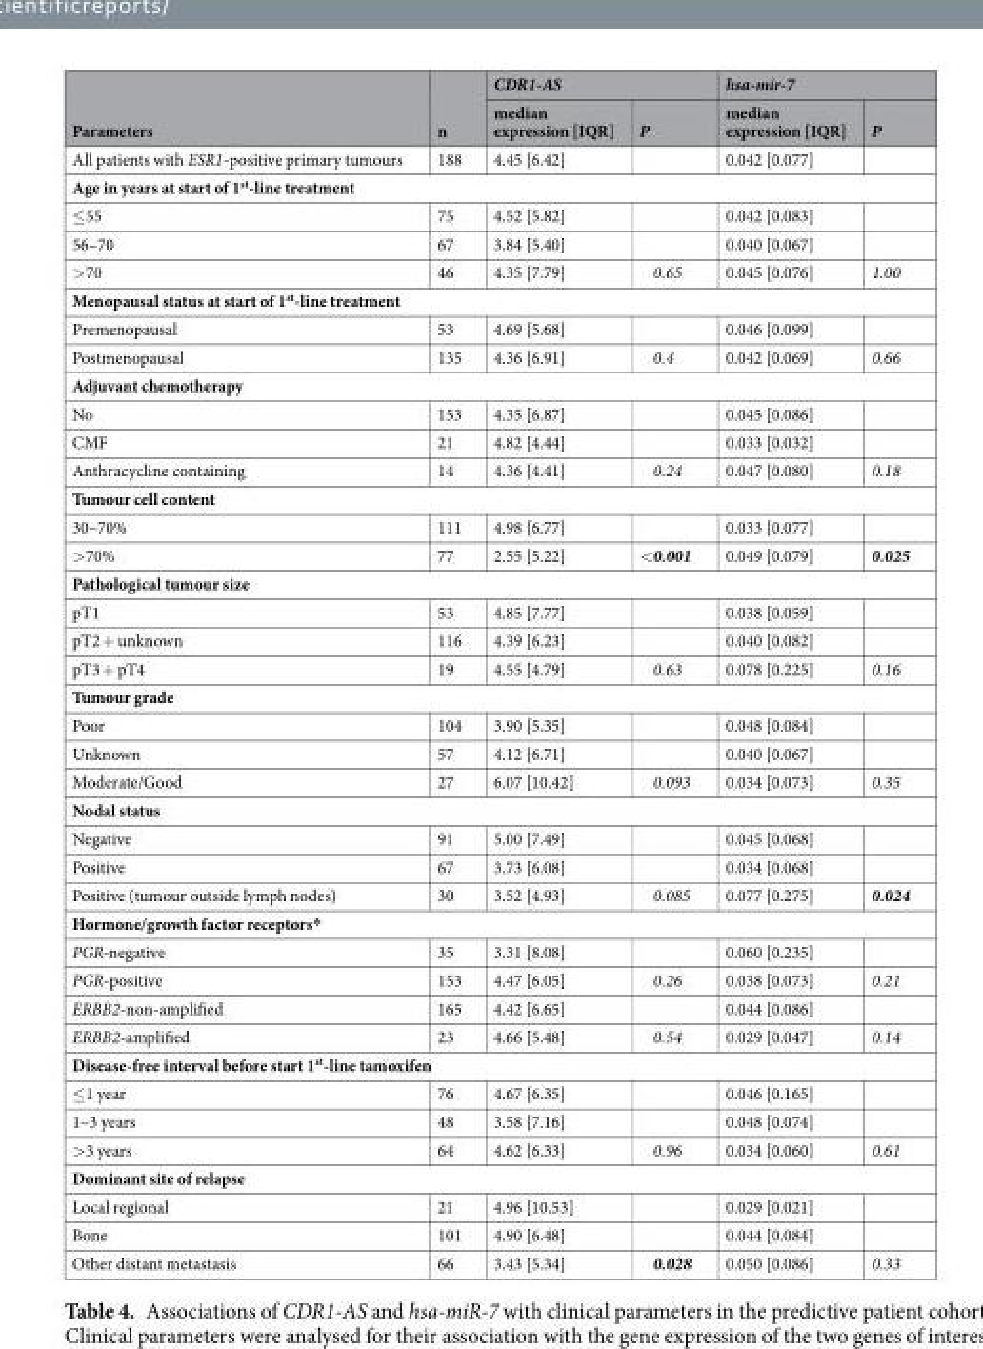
<table><thead><tr><td rowspan="2">Parameters</td><td rowspan="2">n</td><td colspan="2">CDR1-AS</td><td colspan="2">hsa-mir-7</td></tr><tr><td>median expression [IQR]</td><td>P</td><td>median expression [IQR]</td><td>P</td></tr></thead><tbody><tr><td>All patients with ESR1-positive primary tumours</td><td>188</td><td>4.45 [6.42]</td><td></td><td>0.042 [0.077]</td><td></td></tr><tr><td colspan="6">Age in years at start of 1<sup>st</sup>-line treatment</td></tr><tr><td>≤55</td><td>75</td><td>4.52 [5.82]</td><td></td><td>0.042 [0.083]</td><td></td></tr><tr><td>56–70</td><td>67</td><td>3.84 [5.40]</td><td></td><td>0.040 [0.067]</td><td></td></tr><tr><td>&gt;70</td><td>46</td><td>4.35 [7.79]</td><td>0.65</td><td>0.045 [0.076]</td><td>1.00</td></tr><tr><td colspan="6">Menopausal status at start of 1<sup>st</sup>-line treatment</td></tr><tr><td>Premenopausal</td><td>53</td><td>4.69 [5.68]</td><td></td><td>0.046 [0.099]</td><td></td></tr><tr><td>Postmenopausal</td><td>135</td><td>4.36 [6.91]</td><td>0.4</td><td>0.042 [0.069]</td><td>0.66</td></tr><tr><td colspan="6">Adjuvant chemotherapy</td></tr><tr><td>No</td><td>153</td><td>4.35 [6.87]</td><td></td><td>0.045 [0.086]</td><td></td></tr><tr><td>CMF</td><td>21</td><td>4.82 [4.44]</td><td></td><td>0.033 [0.032]</td><td></td></tr><tr><td>Anthracycline containing</td><td>14</td><td>4.36 [4.41]</td><td>0.24</td><td>0.047 [0.080]</td><td>0.18</td></tr><tr><td colspan="6">Tumour cell content</td></tr><tr><td>30–70%</td><td>111</td><td>4.98 [6.77]</td><td></td><td>0.033 [0.077]</td><td></td></tr><tr><td>&gt;70%</td><td>77</td><td>2.55 [5.22]</td><td>&lt;0.001</td><td>0.049 [0.079]</td><td>0.025</td></tr><tr><td colspan="6">Pathological tumour size</td></tr><tr><td>pT1</td><td>53</td><td>4.85 [7.77]</td><td></td><td>0.038 [0.059]</td><td></td></tr><tr><td>pT2 + unknown</td><td>116</td><td>4.39 [6.23]</td><td></td><td>0.040 [0.082]</td><td></td></tr><tr><td>pT3 + pT4</td><td>19</td><td>4.55 [4.79]</td><td>0.63</td><td>0.078 [0.225]</td><td>0.16</td></tr><tr><td colspan="6">Tumour grade</td></tr><tr><td>Poor</td><td>104</td><td>3.90 [5.35]</td><td></td><td>0.048 [0.084]</td><td></td></tr><tr><td>Unknown</td><td>57</td><td>4.12 [6.71]</td><td></td><td>0.040 [0.067]</td><td></td></tr><tr><td>Moderate/Good</td><td>27</td><td>6.07 [10.42]</td><td>0.093</td><td>0.034 [0.073]</td><td>0.35</td></tr><tr><td colspan="6">Nodal status</td></tr><tr><td>Negative</td><td>91</td><td>5.00 [7.49]</td><td></td><td>0.045 [0.068]</td><td></td></tr><tr><td>Positive</td><td>67</td><td>3.73 [6.08]</td><td></td><td>0.034 [0.068]</td><td></td></tr><tr><td>Positive (tumour outside lymph nodes)</td><td>30</td><td>3.52 [4.93]</td><td>0.085</td><td>0.077 [0.275]</td><td>0.024</td></tr><tr><td colspan="6">Hormone/growth factor receptors*</td></tr><tr><td>PGR-negative</td><td>35</td><td>3.31 [8.08]</td><td></td><td>0.060 [0.235]</td><td></td></tr><tr><td>PGR-positive</td><td>153</td><td>4.47 [6.05]</td><td>0.26</td><td>0.038 [0.073]</td><td>0.21</td></tr><tr><td>ERBB2-non-amplified</td><td>165</td><td>4.42 [6.65]</td><td></td><td>0.044 [0.086]</td><td></td></tr><tr><td>ERBB2-amplified</td><td>23</td><td>4.66 [5.48]</td><td>0.54</td><td>0.029 [0.047]</td><td>0.14</td></tr><tr><td colspan="6">Disease-free interval before start 1<sup>st</sup>-line tamoxifen</td></tr><tr><td>≤1 year</td><td>76</td><td>4.67 [6.35]</td><td></td><td>0.046 [0.165]</td><td></td></tr><tr><td>1–3 years</td><td>48</td><td>3.58 [7.16]</td><td></td><td>0.048 [0.074]</td><td></td></tr><tr><td>&gt;3 years</td><td>64</td><td>4.62 [6.33]</td><td>0.96</td><td>0.034 [0.060]</td><td>0.61</td></tr><tr><td colspan="6">Dominant site of relapse</td></tr><tr><td>Local regional</td><td>21</td><td>4.96 [10.53]</td><td></td><td>0.029 [0.021]</td><td></td></tr><tr><td>Bone</td><td>101</td><td>4.90 [6.48]</td><td></td><td>0.044 [0.084]</td><td></td></tr><tr><td>Other distant metastasis</td><td>66</td><td>3.43 [5.34]</td><td>0.028</td><td>0.050 [0.086]</td><td>0.33</td></tr></tbody></table>